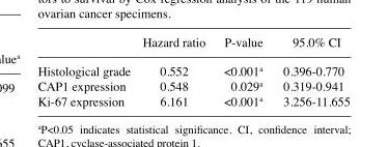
<table><thead><tr><td></td><td>Hazard ratio</td><td>P-value</td><td>95.0% CI</td></tr></thead><tbody><tr><td>Histological grade</td><td>0.552</td><td>&lt;0.001<sup>a</sup></td><td>0.396-0.770</td></tr><tr><td>CAP1 expression</td><td>0.548</td><td>0.029<sup>a</sup></td><td>0.319-0.941</td></tr><tr><td>Ki-67 expression</td><td>6.161</td><td>&lt;0.001<sup>a</sup></td><td>3.256-11.655</td></tr></tbody></table>